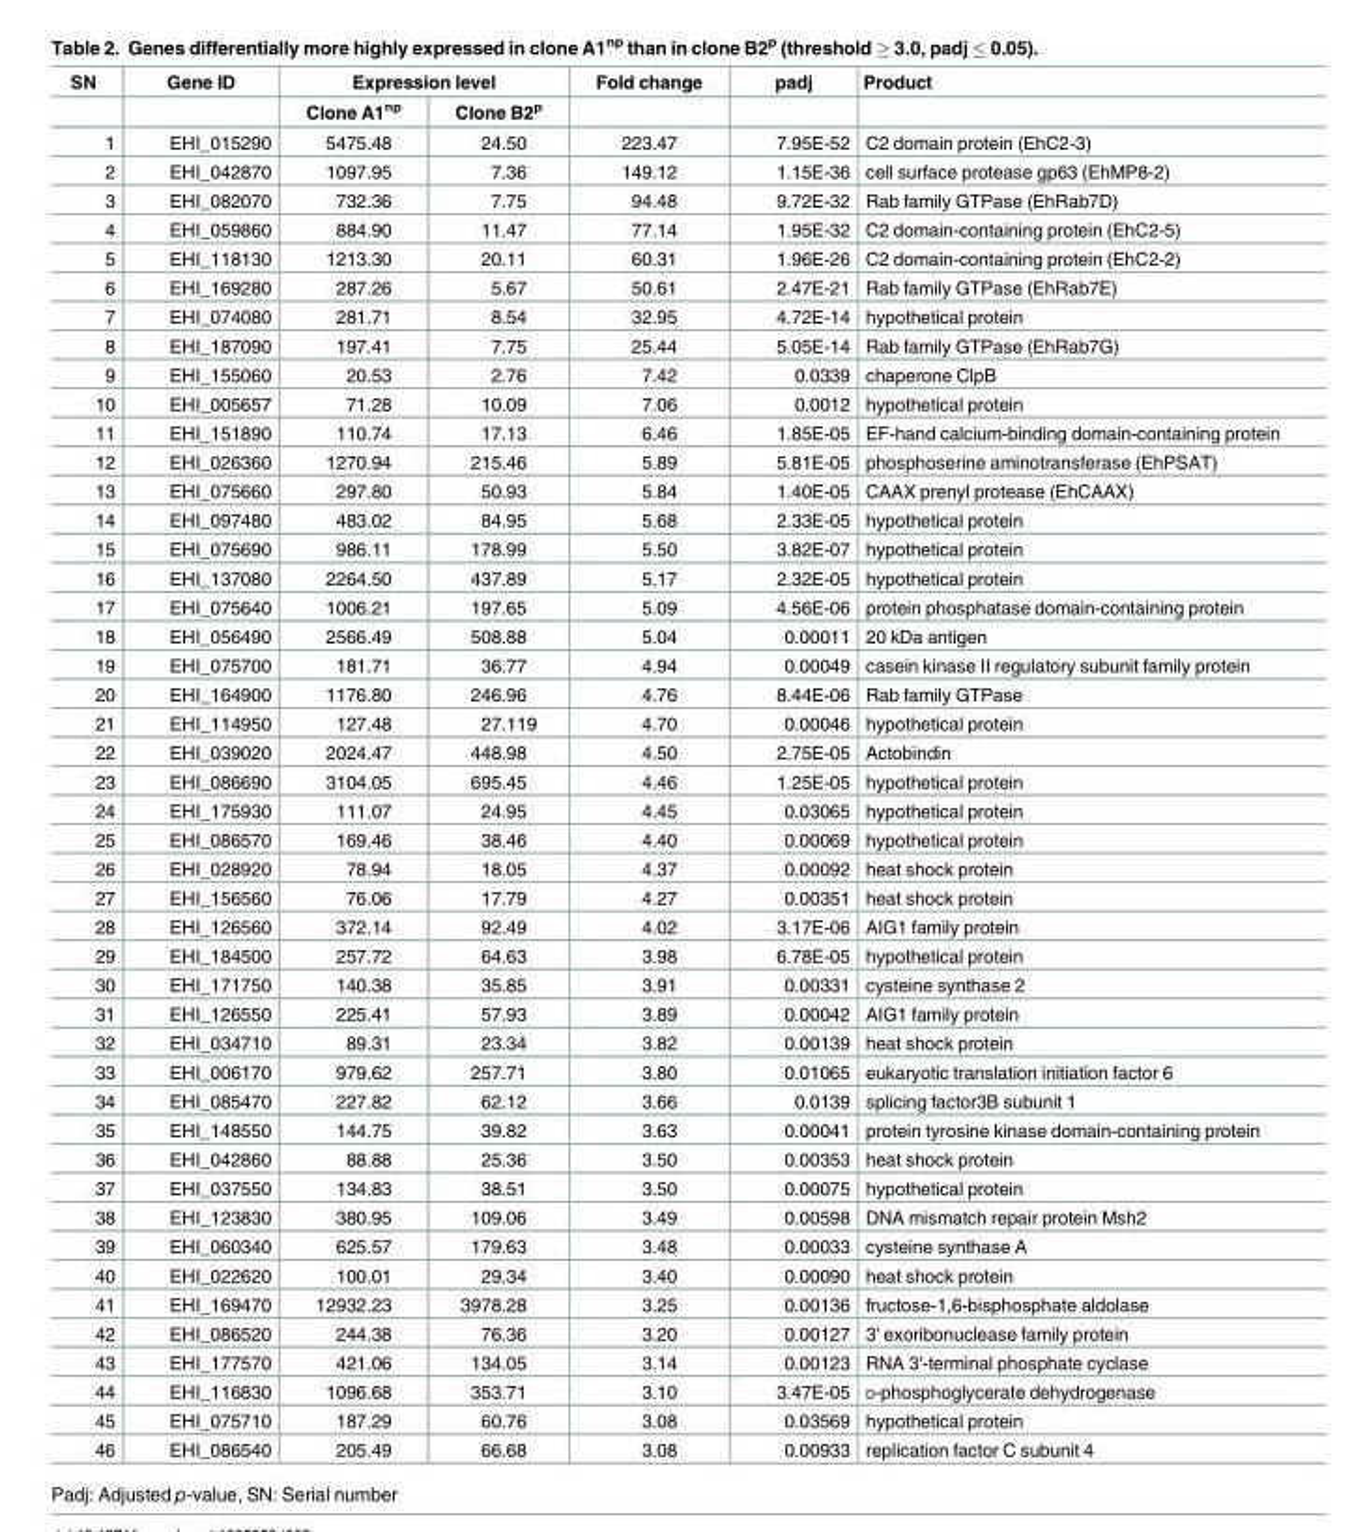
<table><thead><tr><td rowspan="2">SN</td><td rowspan="2">Gene ID</td><td colspan="2">Expression level</td><td rowspan="2">Fold change</td><td rowspan="2">padj</td><td rowspan="2">Product</td></tr><tr><td>Clone A1<sup>np</sup></td><td>Clone B2<sup>p</sup></td></tr></thead><tbody><tr><td>1</td><td>EHI_015290</td><td>5475.48</td><td>24.50</td><td>223.47</td><td>7.95E-52</td><td>C2 domain protein (EhC2-3)</td></tr><tr><td>2</td><td>EHI_042870</td><td>1097.95</td><td>7.36</td><td>149.12</td><td>1.15E-36</td><td>cell surface protease gp63 (EhMP8-2)</td></tr><tr><td>3</td><td>EHI_082070</td><td>732.36</td><td>7.75</td><td>94.48</td><td>9.72E-32</td><td>Rab family GTPase (EhRab7D)</td></tr><tr><td>4</td><td>EHI_059860</td><td>884.90</td><td>11.47</td><td>77.14</td><td>1.95E-32</td><td>C2 domain-containing protein (EhC2-5)</td></tr><tr><td>5</td><td>EHI_118130</td><td>1213.30</td><td>20.11</td><td>60.31</td><td>1.96E-26</td><td>C2 domain-containing protein (EhC2-2)</td></tr><tr><td>6</td><td>EHI_169280</td><td>287.26</td><td>5.67</td><td>50.61</td><td>2.47E-21</td><td>Rab family GTPase (EhRab7E)</td></tr><tr><td>7</td><td>EHI_074080</td><td>281.71</td><td>8.54</td><td>32.95</td><td>4.72E-14</td><td>hypothetical protein</td></tr><tr><td>8</td><td>EHI_187090</td><td>197.41</td><td>7.75</td><td>25.44</td><td>5.05E-14</td><td>Rab family GTPase (EhRab7G)</td></tr><tr><td>9</td><td>EHI_155060</td><td>20.53</td><td>2.76</td><td>7.42</td><td>0.0339</td><td>chaperone ClpB</td></tr><tr><td>10</td><td>EHI_005657</td><td>71.28</td><td>10.09</td><td>7.06</td><td>0.0012</td><td>hypothetical protein</td></tr><tr><td>11</td><td>EHI_151890</td><td>110.74</td><td>17.13</td><td>6.46</td><td>1.85E-05</td><td>EF-hand calcium-binding domain-containing protein</td></tr><tr><td>12</td><td>EHI_026360</td><td>1270.94</td><td>215.46</td><td>5.89</td><td>5.81E-05</td><td>phosphoserine aminotransferase (EhPSAT)</td></tr><tr><td>13</td><td>EHI_075660</td><td>297.80</td><td>50.93</td><td>5.84</td><td>1.40E-05</td><td>CAAX prenyl protease (EhCAAX)</td></tr><tr><td>14</td><td>EHI_097480</td><td>483.02</td><td>84.95</td><td>5.68</td><td>2.33E-05</td><td>hypothetical protein</td></tr><tr><td>15</td><td>EHI_075690</td><td>986.11</td><td>178.99</td><td>5.50</td><td>3.82E-07</td><td>hypothetical protein</td></tr><tr><td>16</td><td>EHI_137080</td><td>2264.50</td><td>437.89</td><td>5.17</td><td>2.32E-05</td><td>hypothetical protein</td></tr><tr><td>17</td><td>EHI_075640</td><td>1006.21</td><td>197.65</td><td>5.09</td><td>4.56E-06</td><td>protein phosphatase domain-containing protein</td></tr><tr><td>18</td><td>EHI_056490</td><td>2566.49</td><td>508.88</td><td>5.04</td><td>0.00011</td><td>20 kDa antigen</td></tr><tr><td>19</td><td>EHI_075700</td><td>181.71</td><td>36.77</td><td>4.94</td><td>0.00049</td><td>casein kinase II regulatory subunit family protein</td></tr><tr><td>20</td><td>EHI_164900</td><td>1176.80</td><td>246.96</td><td>4.76</td><td>8.44E-06</td><td>Rab family GTPase</td></tr><tr><td>21</td><td>EHI_114950</td><td>127.48</td><td>27.119</td><td>4.70</td><td>0.00046</td><td>hypothetical protein</td></tr><tr><td>22</td><td>EHI_039020</td><td>2024.47</td><td>448.98</td><td>4.50</td><td>2.75E-05</td><td>Actobindin</td></tr><tr><td>23</td><td>EHI_086690</td><td>3104.05</td><td>695.45</td><td>4.46</td><td>1.25E-05</td><td>hypothetical protein</td></tr><tr><td>24</td><td>EHI_175930</td><td>111.07</td><td>24.95</td><td>4.45</td><td>0.03065</td><td>hypothetical protein</td></tr><tr><td>25</td><td>EHI_086570</td><td>169.46</td><td>38.46</td><td>4.40</td><td>0.00069</td><td>hypothetical protein</td></tr><tr><td>26</td><td>EHI_028920</td><td>78.94</td><td>18.05</td><td>4.37</td><td>0.00092</td><td>heat shock protein</td></tr><tr><td>27</td><td>EHI_156560</td><td>76.06</td><td>17.79</td><td>4.27</td><td>0.00351</td><td>heat shock protein</td></tr><tr><td>28</td><td>EHI_126560</td><td>372.14</td><td>92.49</td><td>4.02</td><td>3.17E-06</td><td>AIG1 family protein</td></tr><tr><td>29</td><td>EHI_184500</td><td>257.72</td><td>64.63</td><td>3.98</td><td>6.78E-05</td><td>hypothetical protein</td></tr><tr><td>30</td><td>EHI_171750</td><td>140.38</td><td>35.85</td><td>3.91</td><td>0.00331</td><td>cysteine synthase 2</td></tr><tr><td>31</td><td>EHI_126550</td><td>225.41</td><td>57.93</td><td>3.89</td><td>0.00042</td><td>AIG1 family protein</td></tr><tr><td>32</td><td>EHI_034710</td><td>89.31</td><td>23.34</td><td>3.82</td><td>0.00139</td><td>heat shock protein</td></tr><tr><td>33</td><td>EHI_006170</td><td>979.62</td><td>257.71</td><td>3.80</td><td>0.01065</td><td>eukaryotic translation initiation factor 6</td></tr><tr><td>34</td><td>EHI_085470</td><td>227.82</td><td>62.12</td><td>3.66</td><td>0.0139</td><td>splicing factor3B subunit 1</td></tr><tr><td>35</td><td>EHI_148550</td><td>144.75</td><td>39.82</td><td>3.63</td><td>0.00041</td><td>protein tyrosine kinase domain-containing protein</td></tr><tr><td>36</td><td>EHI_042860</td><td>88.88</td><td>25.36</td><td>3.50</td><td>0.00353</td><td>heat shock protein</td></tr><tr><td>37</td><td>EHI_037550</td><td>134.83</td><td>38.51</td><td>3.50</td><td>0.00075</td><td>hypothetical protein</td></tr><tr><td>38</td><td>EHI_123830</td><td>380.95</td><td>109.06</td><td>3.49</td><td>0.00598</td><td>DNA mismatch repair protein Msh2</td></tr><tr><td>39</td><td>EHI_060340</td><td>625.57</td><td>179.63</td><td>3.48</td><td>0.00033</td><td>cysteine synthase A</td></tr><tr><td>40</td><td>EHI_022620</td><td>100.01</td><td>29.34</td><td>3.40</td><td>0.00090</td><td>heat shock protein</td></tr><tr><td>41</td><td>EHI_169470</td><td>12932.23</td><td>3978.28</td><td>3.25</td><td>0.00136</td><td>fructose-1,6-bisphosphate aldolase</td></tr><tr><td>42</td><td>EHI_086520</td><td>244.38</td><td>76.36</td><td>3.20</td><td>0.00127</td><td>3&#x27; exoribonuclease family protein</td></tr><tr><td>43</td><td>EHI_177570</td><td>421.06</td><td>134.05</td><td>3.14</td><td>0.00123</td><td>RNA 3&#x27;-terminal phosphate cyclase</td></tr><tr><td>44</td><td>EHI_116830</td><td>1096.68</td><td>353.71</td><td>3.10</td><td>3.47E-05</td><td>D-phosphoglycerate dehydrogenase</td></tr><tr><td>45</td><td>EHI_075710</td><td>187.29</td><td>60.76</td><td>3.08</td><td>0.03569</td><td>hypothetical protein</td></tr><tr><td>46</td><td>EHI_086540</td><td>205.49</td><td>66.68</td><td>3.08</td><td>0.00933</td><td>replication factor C subunit 4</td></tr></tbody></table>